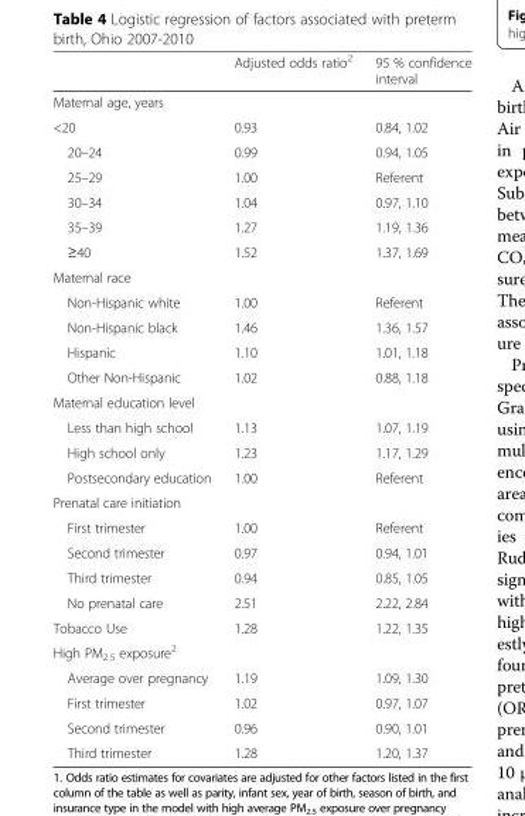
<table><thead><tr><td></td><td>Adjusted odds ratio<sup>2</sup></td><td>95 % confidence interval</td></tr></thead><tbody><tr><td colspan="3">Maternal age, years</td></tr><tr><td>&lt;20</td><td>0.93</td><td>0.84, 1.02</td></tr><tr><td>20–24</td><td>0.99</td><td>0.94, 1.05</td></tr><tr><td>25–29</td><td>1.00</td><td>Referent</td></tr><tr><td>30–34</td><td>1.04</td><td>0.97, 1.10</td></tr><tr><td>35–39</td><td>1.27</td><td>1.19, 1.36</td></tr><tr><td>≥40</td><td>1.52</td><td>1.37, 1.69</td></tr><tr><td colspan="3">Maternal race</td></tr><tr><td>Non-Hispanic white</td><td>1.00</td><td>Referent</td></tr><tr><td>Non-Hispanic black</td><td>1.46</td><td>1.36, 1.57</td></tr><tr><td>Hispanic</td><td>1.10</td><td>1.01, 1.18</td></tr><tr><td>Other Non-Hispanic</td><td>1.02</td><td>0.88, 1.18</td></tr><tr><td colspan="3">Maternal education level</td></tr><tr><td>Less than high school</td><td>1.13</td><td>1.07, 1.19</td></tr><tr><td>High school only</td><td>1.23</td><td>1.17, 1.29</td></tr><tr><td>Postsecondary education</td><td>1.00</td><td>Referent</td></tr><tr><td colspan="3">Prenatal care initiation</td></tr><tr><td>First trimester</td><td>1.00</td><td>Referent</td></tr><tr><td>Second trimester</td><td>0.97</td><td>0.94, 1.01</td></tr><tr><td>Third trimester</td><td>0.94</td><td>0.85, 1.05</td></tr><tr><td>No prenatal care</td><td>2.51</td><td>2.22, 2.84</td></tr><tr><td>Tobacco Use</td><td>1.28</td><td>1.22, 1.35</td></tr><tr><td colspan="3">High PM<sub>2.5</sub> exposure<sup>2</sup></td></tr><tr><td>Average over pregnancy</td><td>1.19</td><td>1.09, 1.30</td></tr><tr><td>First trimester</td><td>1.02</td><td>0.97, 1.07</td></tr><tr><td>Second trimester</td><td>0.96</td><td>0.90, 1.01</td></tr><tr><td>Third trimester</td><td>1.28</td><td>1.20, 1.37</td></tr></tbody></table>